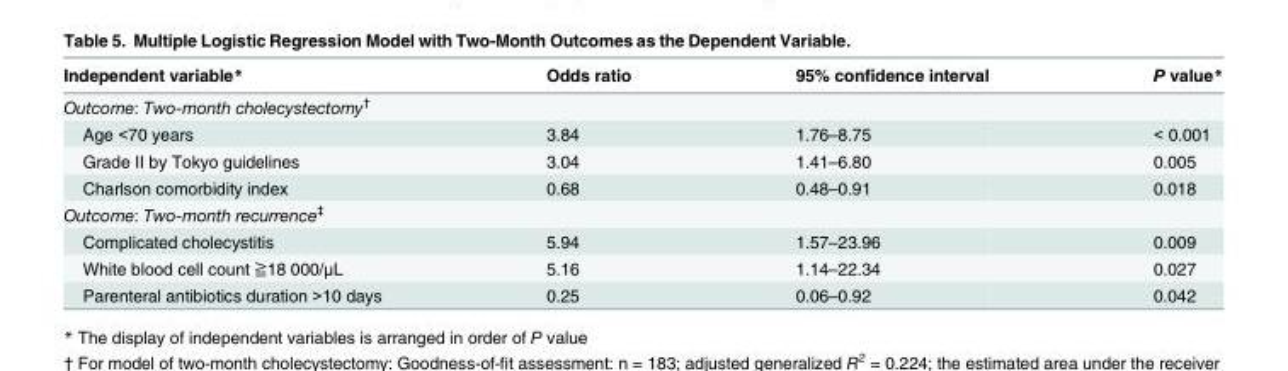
<table><thead><tr><td>Independent variable*</td><td>Odds ratio</td><td>95% confidence interval</td><td>P value*</td></tr></thead><tbody><tr><td colspan="4">Outcome: Two-month cholecystectomy<sup>†</sup></td></tr><tr><td>Age &lt;70 years</td><td>3.84</td><td>1.76–8.75</td><td>&lt; 0.001</td></tr><tr><td>Grade II by Tokyo guidelines</td><td>3.04</td><td>1.41–6.80</td><td>0.005</td></tr><tr><td>Charlson comorbidity index</td><td>0.68</td><td>0.48–0.91</td><td>0.018</td></tr><tr><td colspan="4">Outcome: Two-month recurrence<sup>‡</sup></td></tr><tr><td>Complicated cholecystitis</td><td>5.94</td><td>1.57–23.96</td><td>0.009</td></tr><tr><td>White blood cell count ≧18 000/μL</td><td>5.16</td><td>1.14–22.34</td><td>0.027</td></tr><tr><td>Parenteral antibiotics duration &gt;10 days</td><td>0.25</td><td>0.06–0.92</td><td>0.042</td></tr></tbody></table>